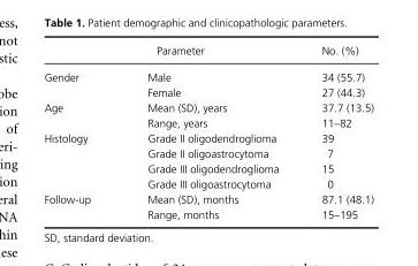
<table><thead><tr><td></td><td>Parameter</td><td>No. (%)</td></tr></thead><tbody><tr><td rowspan="2">Gender</td><td>Male</td><td>34 (55.7)</td></tr><tr><td>Female</td><td>27 (44.3)</td></tr><tr><td rowspan="2">Age</td><td>Mean (SD), years</td><td>37.7 (13.5)</td></tr><tr><td>Range, years</td><td>11–82</td></tr><tr><td rowspan="4">Histology</td><td>Grade II oligodendroglioma</td><td>39</td></tr><tr><td>Grade II oligoastrocytoma</td><td>7</td></tr><tr><td>Grade III oligodendroglioma</td><td>15</td></tr><tr><td>Grade III oligoastrocytoma</td><td>0</td></tr><tr><td rowspan="2">Follow- up</td><td>Mean (SD), months</td><td>87.1 (48.1)</td></tr><tr><td>Range, months</td><td>15–195</td></tr></tbody></table>